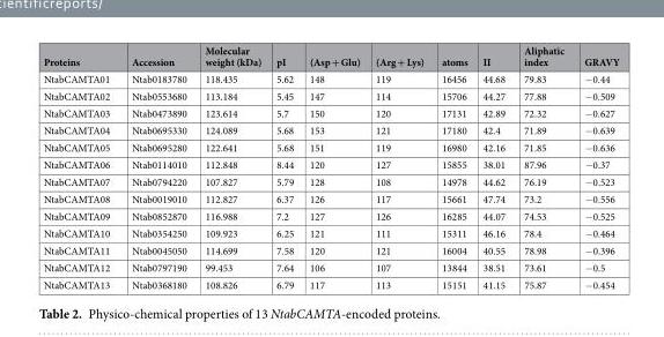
<table><thead><tr><td>Proteins</td><td>Accession</td><td>Molecular weight (kDa)</td><td>pI</td><td>(Asp + Glu)</td><td>(Arg + Lys)</td><td>atoms</td><td>II</td><td>Aliphatic index</td><td>GRAVY</td></tr></thead><tbody><tr><td>NtabCAMTA01</td><td>Ntab0183780</td><td>118.435</td><td>5.62</td><td>148</td><td>119</td><td>16456</td><td>44.68</td><td>79.83</td><td>−0.44</td></tr><tr><td>NtabCAMTA02</td><td>Ntab0553680</td><td>113.184</td><td>5.45</td><td>147</td><td>114</td><td>15706</td><td>44.27</td><td>77.88</td><td>−0.509</td></tr><tr><td>NtabCAMTA03</td><td>Ntab0473890</td><td>123.614</td><td>5.7</td><td>150</td><td>120</td><td>17131</td><td>42.89</td><td>72.32</td><td>−0.627</td></tr><tr><td>NtabCAMTA04</td><td>Ntab0695330</td><td>124.089</td><td>5.68</td><td>153</td><td>121</td><td>17180</td><td>42.4</td><td>71.89</td><td>−0.639</td></tr><tr><td>NtabCAMTA05</td><td>Ntab0695280</td><td>122.641</td><td>5.68</td><td>151</td><td>119</td><td>16980</td><td>42.16</td><td>71.85</td><td>−0.636</td></tr><tr><td>NtabCAMTA06</td><td>Ntab0114010</td><td>112.848</td><td>8.44</td><td>120</td><td>127</td><td>15855</td><td>38.01</td><td>87.96</td><td>−0.37</td></tr><tr><td>NtabCAMTA07</td><td>Ntab0794220</td><td>107.827</td><td>5.79</td><td>128</td><td>108</td><td>14978</td><td>44.62</td><td>76.19</td><td>−0.523</td></tr><tr><td>NtabCAMTA08</td><td>Ntab0019010</td><td>112.827</td><td>6.37</td><td>126</td><td>117</td><td>15661</td><td>47.74</td><td>73.2</td><td>−0.556</td></tr><tr><td>NtabCAMTA09</td><td>Ntab0852870</td><td>116.988</td><td>7.2</td><td>127</td><td>126</td><td>16285</td><td>44.07</td><td>74.53</td><td>−0.525</td></tr><tr><td>NtabCAMTA10</td><td>Ntab0354250</td><td>109.923</td><td>6.25</td><td>121</td><td>111</td><td>15311</td><td>46.16</td><td>78.4</td><td>−0.464</td></tr><tr><td>NtabCAMTA11</td><td>Ntab0045050</td><td>114.699</td><td>7.58</td><td>120</td><td>121</td><td>16004</td><td>40.55</td><td>78.98</td><td>−0.396</td></tr><tr><td>NtabCAMTA12</td><td>Ntab0797190</td><td>99.453</td><td>7.64</td><td>106</td><td>107</td><td>13844</td><td>38.51</td><td>73.61</td><td>−0.5</td></tr><tr><td>NtabCAMTA13</td><td>Ntab0368180</td><td>108.826</td><td>6.79</td><td>117</td><td>113</td><td>15151</td><td>41.15</td><td>75.87</td><td>−0.454</td></tr></tbody></table>